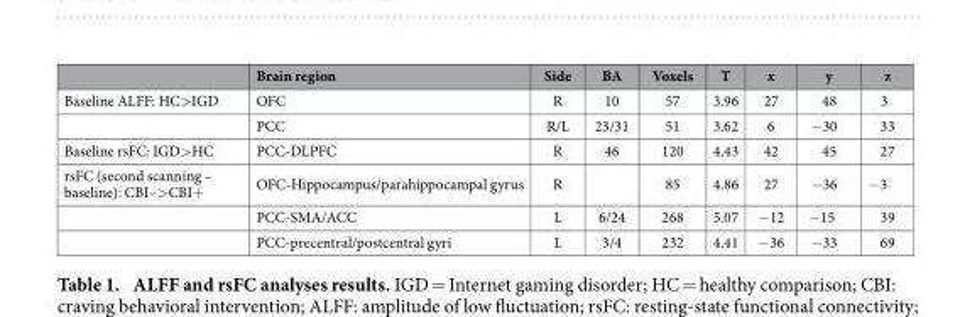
<table><thead><tr><td></td><td>Brain region</td><td>Side</td><td>BA</td><td>Voxels</td><td>T</td><td>x</td><td>y</td><td>z</td></tr></thead><tbody><tr><td rowspan="2">Baseline ALFF: HC&gt; IGD</td><td>OFC</td><td>R</td><td>10</td><td>57</td><td>3.96</td><td>27</td><td>48</td><td>3</td></tr><tr><td>PCC</td><td>R/L</td><td>23/31</td><td>51</td><td>3.62</td><td>6</td><td>− 30</td><td>33</td></tr><tr><td>Baseline rsFC: IGD&gt; HC</td><td>PCC-DLPFC</td><td>R</td><td>46</td><td>120</td><td>4.43</td><td>42</td><td>45</td><td>27</td></tr><tr><td rowspan="3">rsFC (second scanning – baseline): CBI–&gt; CBI+</td><td>OFC-Hippocampus/parahippocampal gyrus</td><td>R</td><td></td><td>85</td><td>4.86</td><td>27</td><td>− 36</td><td>−3</td></tr><tr><td>PCC-SMA/ACC</td><td>L</td><td>6/24</td><td>268</td><td>5.07</td><td>− 12</td><td>− 15</td><td>39</td></tr><tr><td>PCC-precentral/postcentral gyri</td><td>L</td><td>3/4</td><td>232</td><td>4.41</td><td>− 36</td><td>− 33</td><td>69</td></tr></tbody></table>